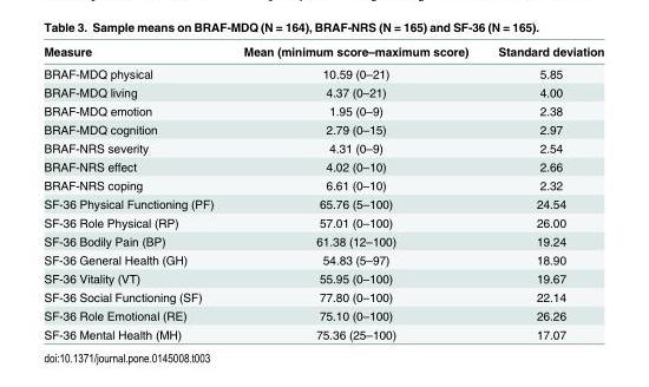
<table><thead><tr><td>Measure</td><td>Mean (minimum score–maximum score)</td><td>Standard deviation</td></tr></thead><tbody><tr><td>BRAF-MDQ physical</td><td>10.59 (0–21)</td><td>5.85</td></tr><tr><td>BRAF-MDQ living</td><td>4.37 (0–21)</td><td>4.00</td></tr><tr><td>BRAF-MDQ emotion</td><td>1.95 (0–9)</td><td>2.38</td></tr><tr><td>BRAF-MDQ cognition</td><td>2.79 (0–15)</td><td>2.97</td></tr><tr><td>BRAF-NRS severity</td><td>4.31 (0–9)</td><td>2.54</td></tr><tr><td>BRAF-NRS effect</td><td>4.02 (0–10)</td><td>2.66</td></tr><tr><td>BRAF-NRS coping</td><td>6.61 (0–10)</td><td>2.32</td></tr><tr><td>SF-36 Physical Functioning (PF)</td><td>65.76 (5–100)</td><td>24.54</td></tr><tr><td>SF-36 Role Physical (RP)</td><td>57.01 (0–100)</td><td>26.00</td></tr><tr><td>SF-36 Bodily Pain (BP)</td><td>61.38 (12–100)</td><td>19.24</td></tr><tr><td>SF-36 General Health (GH)</td><td>54.83 (5–97)</td><td>18.90</td></tr><tr><td>SF-36 Vitality (VT)</td><td>55.95 (0–100)</td><td>19.67</td></tr><tr><td>SF-36 Social Functioning (SF)</td><td>77.80 (0–100)</td><td>22.14</td></tr><tr><td>SF-36 Role Emotional (RE)</td><td>75.10 (0–100)</td><td>26.26</td></tr><tr><td>SF-36 Mental Health (MH)</td><td>75.36 (25–100)</td><td>17.07</td></tr></tbody></table>